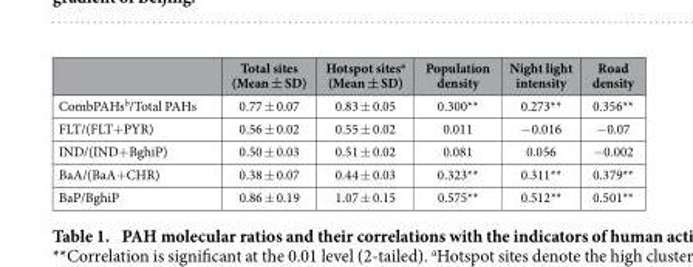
<table><thead><tr><td></td><td>Total sites (Mean ± SD)</td><td>Hotspot sites<sup>a</sup> (Mean ± SD)</td><td>Population density</td><td>Night light intensity</td><td>Road density</td></tr></thead><tbody><tr><td>CombPAHs<sup>b</sup>/Total PAHs</td><td>0.77 ± 0.07</td><td>0.83 ± 0.05</td><td>0.300**</td><td>0.273**</td><td>0.356**</td></tr><tr><td>FLT/(FLT+ PYR)</td><td>0.56 ± 0.02</td><td>0.55 ± 0.02</td><td>0.011</td><td>− 0.016</td><td>− 0.07</td></tr><tr><td>IND/(IND+ BghiP)</td><td>0.50 ± 0.03</td><td>0.51 ± 0.02</td><td>0.081</td><td>0.056</td><td>− 0.002</td></tr><tr><td>BaA/(BaA+ CHR)</td><td>0.38 ± 0.07</td><td>0.44 ± 0.03</td><td>0.323**</td><td>0.311**</td><td>0.379**</td></tr><tr><td>BaP/BghiP</td><td>0.86 ± 0.19</td><td>1.07 ± 0.15</td><td>0.575**</td><td>0.512**</td><td>0.501**</td></tr></tbody></table>